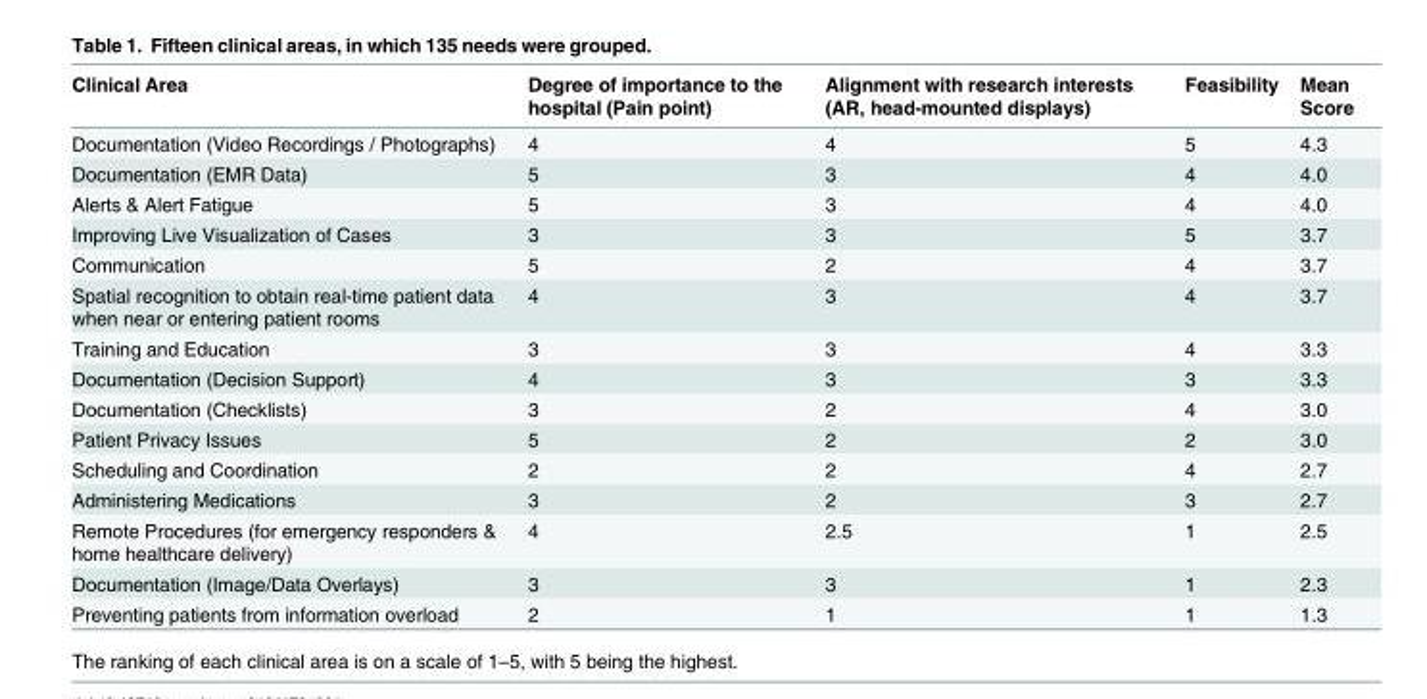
<table><thead><tr><td>Clinical Area</td><td>Degree of importance to the hospital (Pain point)</td><td>Alignment with research interests (AR, head-mounted displays)</td><td>Feasibility</td><td>Mean Score</td></tr></thead><tbody><tr><td>Documentation (Video Recordings / Photographs)</td><td>4</td><td>4</td><td>5</td><td>4.3</td></tr><tr><td>Documentation (EMR Data)</td><td>5</td><td>3</td><td>4</td><td>4.0</td></tr><tr><td>Alerts &amp; Alert Fatigue</td><td>5</td><td>3</td><td>4</td><td>4.0</td></tr><tr><td>Improving Live Visualization of Cases</td><td>3</td><td>3</td><td>5</td><td>3.7</td></tr><tr><td>Communication</td><td>5</td><td>2</td><td>4</td><td>3.7</td></tr><tr><td>Spatial recognition to obtain real-time patient data when near or entering patient rooms</td><td>4</td><td>3</td><td>4</td><td>3.7</td></tr><tr><td>Training and Education</td><td>3</td><td>3</td><td>4</td><td>3.3</td></tr><tr><td>Documentation (Decision Support)</td><td>4</td><td>3</td><td>3</td><td>3.3</td></tr><tr><td>Documentation (Checklists)</td><td>3</td><td>2</td><td>4</td><td>3.0</td></tr><tr><td>Patient Privacy Issues</td><td>5</td><td>2</td><td>2</td><td>3.0</td></tr><tr><td>Scheduling and Coordination</td><td>2</td><td>2</td><td>4</td><td>2.7</td></tr><tr><td>Administering Medications</td><td>3</td><td>2</td><td>3</td><td>2.7</td></tr><tr><td>Remote Procedures (for emergency responders &amp; home healthcare delivery)</td><td>4</td><td>2.5</td><td>1</td><td>2.5</td></tr><tr><td>Documentation (Image/Data Overlays)</td><td>3</td><td>3</td><td>1</td><td>2.3</td></tr><tr><td>Preventing patients from information overload</td><td>2</td><td>1</td><td>1</td><td>1.3</td></tr></tbody></table>